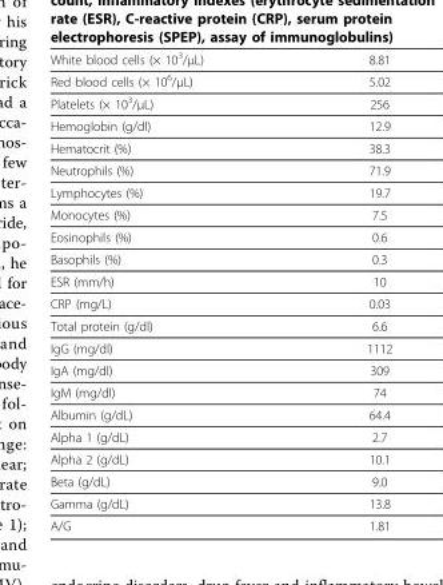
<table><thead><tr><td>White blood cells (× 10<sup>3</sup>/μL)</td><td>8.81</td></tr></thead><tbody><tr><td>Red blood cells (× 10<sup>6</sup>/μL)</td><td>5.02</td></tr><tr><td>Platelets (× 10<sup>3</sup>/μL)</td><td>256</td></tr><tr><td>Hemoglobin (g/dl)</td><td>12.9</td></tr><tr><td>Hematocrit (%)</td><td>38.3</td></tr><tr><td>Neutrophils (%)</td><td>71.9</td></tr><tr><td>Lymphocytes (%)</td><td>19.7</td></tr><tr><td>Monocytes (%)</td><td>7.5</td></tr><tr><td>Eosinophils (%)</td><td>0.6</td></tr><tr><td>Basophils (%)</td><td>0.3</td></tr><tr><td>ESR (mm/h)</td><td>10</td></tr><tr><td>CRP (mg/L)</td><td>0.03</td></tr><tr><td>Total protein (g/dl)</td><td>6.6</td></tr><tr><td>IgG (mg/dl)</td><td>1112</td></tr><tr><td>IgA (mg/dl)</td><td>309</td></tr><tr><td>IgM (mg/dl)</td><td>74</td></tr><tr><td>Albumin (g/dL)</td><td>64.4</td></tr><tr><td>Alpha 1 (g/dL)</td><td>2.7</td></tr><tr><td>Alpha 2 (g/dL)</td><td>10.1</td></tr><tr><td>Beta (g/dL)</td><td>9.0</td></tr><tr><td>Gamma (g/dL)</td><td>13.8</td></tr><tr><td>A/G</td><td>1.81</td></tr></tbody></table>